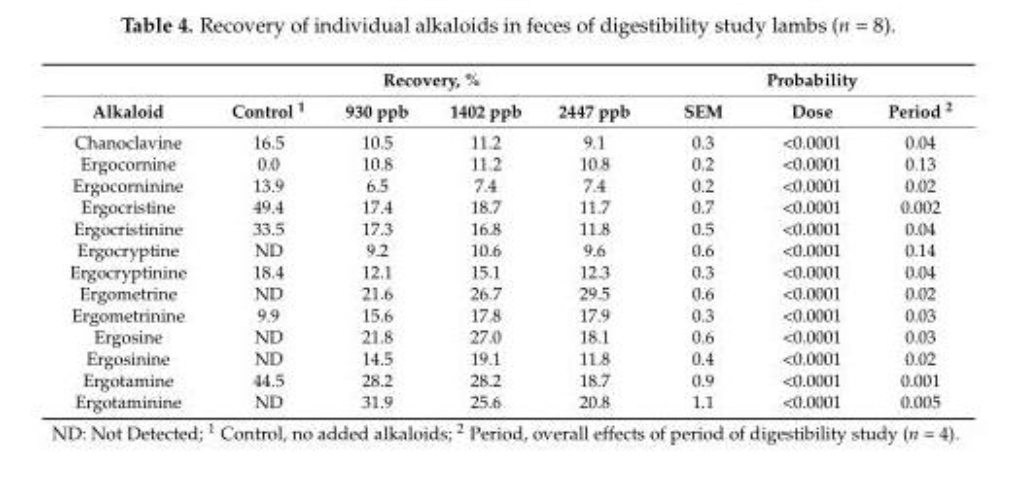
<table><thead><tr><td rowspan="2">Alkaloid</td><td colspan="4">Recovery, %</td><td colspan="3">Probability</td></tr><tr><td>Control <sup>1</sup></td><td>930 ppb</td><td>1402 ppb</td><td>2447 ppb</td><td>SEM</td><td>Dose</td><td>Period <sup>2</sup></td></tr></thead><tbody><tr><td>Chanoclavine</td><td>16.5</td><td>10.5</td><td>11.2</td><td>9.1</td><td>0.3</td><td>&lt;0.0001</td><td>0.04</td></tr><tr><td>Ergocornine</td><td>0.0</td><td>10.8</td><td>11.2</td><td>10.8</td><td>0.2</td><td>&lt;0.0001</td><td>0.13</td></tr><tr><td>Ergocorninine</td><td>13.9</td><td>6.5</td><td>7.4</td><td>7.4</td><td>0.2</td><td>&lt;0.0001</td><td>0.02</td></tr><tr><td>Ergocristine</td><td>49.4</td><td>17.4</td><td>18.7</td><td>11.7</td><td>0.7</td><td>&lt;0.0001</td><td>0.002</td></tr><tr><td>Ergocristinine</td><td>33.5</td><td>17.3</td><td>16.8</td><td>11.8</td><td>0.5</td><td>&lt;0.0001</td><td>0.04</td></tr><tr><td>Ergocryptine</td><td>ND</td><td>9.2</td><td>10.6</td><td>9.6</td><td>0.6</td><td>&lt;0.0001</td><td>0.14</td></tr><tr><td>Ergocryptinine</td><td>18.4</td><td>12.1</td><td>15.1</td><td>12.3</td><td>0.3</td><td>&lt;0.0001</td><td>0.04</td></tr><tr><td>Ergometrine</td><td>ND</td><td>21.6</td><td>26.7</td><td>29.5</td><td>0.6</td><td>&lt;0.0001</td><td>0.02</td></tr><tr><td>Ergometrinine</td><td>9.9</td><td>15.6</td><td>17.8</td><td>17.9</td><td>0.3</td><td>&lt;0.0001</td><td>0.03</td></tr><tr><td>Ergosine</td><td>ND</td><td>21.8</td><td>27.0</td><td>18.1</td><td>0.6</td><td>&lt;0.0001</td><td>0.03</td></tr><tr><td>Ergosinine</td><td>ND</td><td>14.5</td><td>19.1</td><td>11.8</td><td>0.4</td><td>&lt;0.0001</td><td>0.02</td></tr><tr><td>Ergotamine</td><td>44.5</td><td>28.2</td><td>28.2</td><td>18.7</td><td>0.9</td><td>&lt;0.0001</td><td>0.001</td></tr><tr><td>Ergotaminine</td><td>ND</td><td>31.9</td><td>25.6</td><td>20.8</td><td>1.1</td><td>&lt;0.0001</td><td>0.005</td></tr></tbody></table>